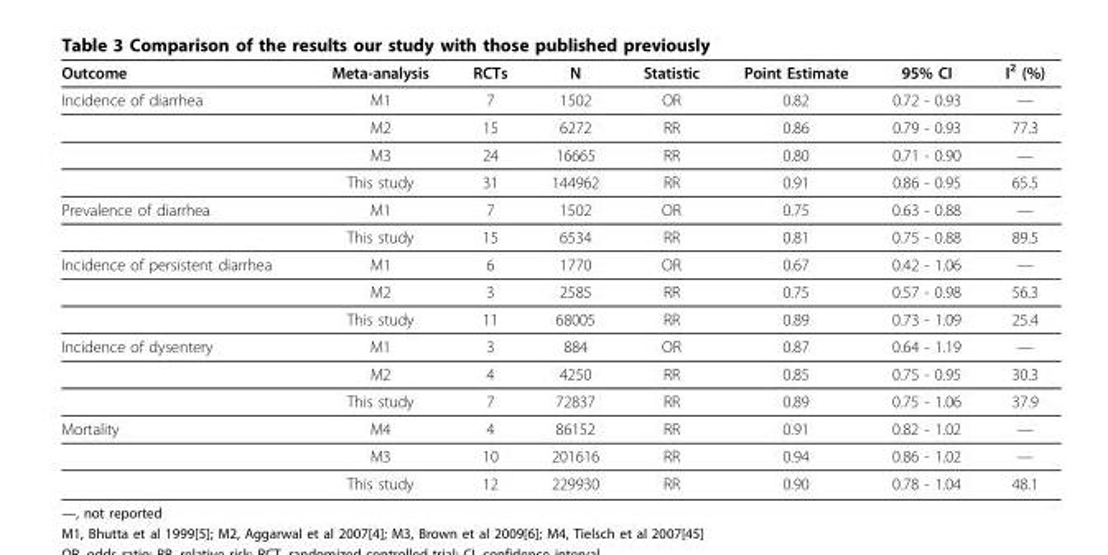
<table><thead><tr><td>Outcome</td><td>Meta-analysis</td><td>RCTs</td><td>N</td><td>Statistic</td><td>Point Estimate</td><td>95% CI</td><td>I<sup>2</sup> (%)</td></tr></thead><tbody><tr><td rowspan="4">Incidence of diarrhea</td><td>M1</td><td>7</td><td>1502</td><td>OR</td><td>0.82</td><td>0.72 - 0.93</td><td>—</td></tr><tr><td>M2</td><td>15</td><td>6272</td><td>RR</td><td>0.86</td><td>0.79 - 0.93</td><td>77.3</td></tr><tr><td>M3</td><td>24</td><td>16665</td><td>RR</td><td>0.80</td><td>0.71 - 0.90</td><td>—</td></tr><tr><td>This study</td><td>31</td><td>144962</td><td>RR</td><td>0.91</td><td>0.86 - 0.95</td><td>65.5</td></tr><tr><td rowspan="2">Prevalence of diarrhea</td><td>M1</td><td>7</td><td>1502</td><td>OR</td><td>0.75</td><td>0.63 - 0.88</td><td>—</td></tr><tr><td>This study</td><td>15</td><td>6534</td><td>RR</td><td>0.81</td><td>0.75 - 0.88</td><td>89.5</td></tr><tr><td rowspan="3">Incidence of persistent diarrhea</td><td>M1</td><td>6</td><td>1770</td><td>OR</td><td>0.67</td><td>0.42 - 1.06</td><td>—</td></tr><tr><td>M2</td><td>3</td><td>2585</td><td>RR</td><td>0.75</td><td>0.57 - 0.98</td><td>56.3</td></tr><tr><td>This study</td><td>11</td><td>68005</td><td>RR</td><td>0.89</td><td>0.73 - 1.09</td><td>25.4</td></tr><tr><td rowspan="3">Incidence of dysentery</td><td>M1</td><td>3</td><td>884</td><td>OR</td><td>0.87</td><td>0.64 - 1.19</td><td>—</td></tr><tr><td>M2</td><td>4</td><td>4250</td><td>RR</td><td>0.85</td><td>0.75 - 0.95</td><td>30.3</td></tr><tr><td>This study</td><td>7</td><td>72837</td><td>RR</td><td>0.89</td><td>0.75 - 1.06</td><td>37.9</td></tr><tr><td rowspan="3">Mortality</td><td>M4</td><td>4</td><td>86152</td><td>RR</td><td>0.91</td><td>0.82 - 1.02</td><td>—</td></tr><tr><td>M3</td><td>10</td><td>201616</td><td>RR</td><td>0.94</td><td>0.86 - 1.02</td><td>—</td></tr><tr><td>This study</td><td>12</td><td>229930</td><td>RR</td><td>0.90</td><td>0.78 - 1.04</td><td>48.1</td></tr></tbody></table>